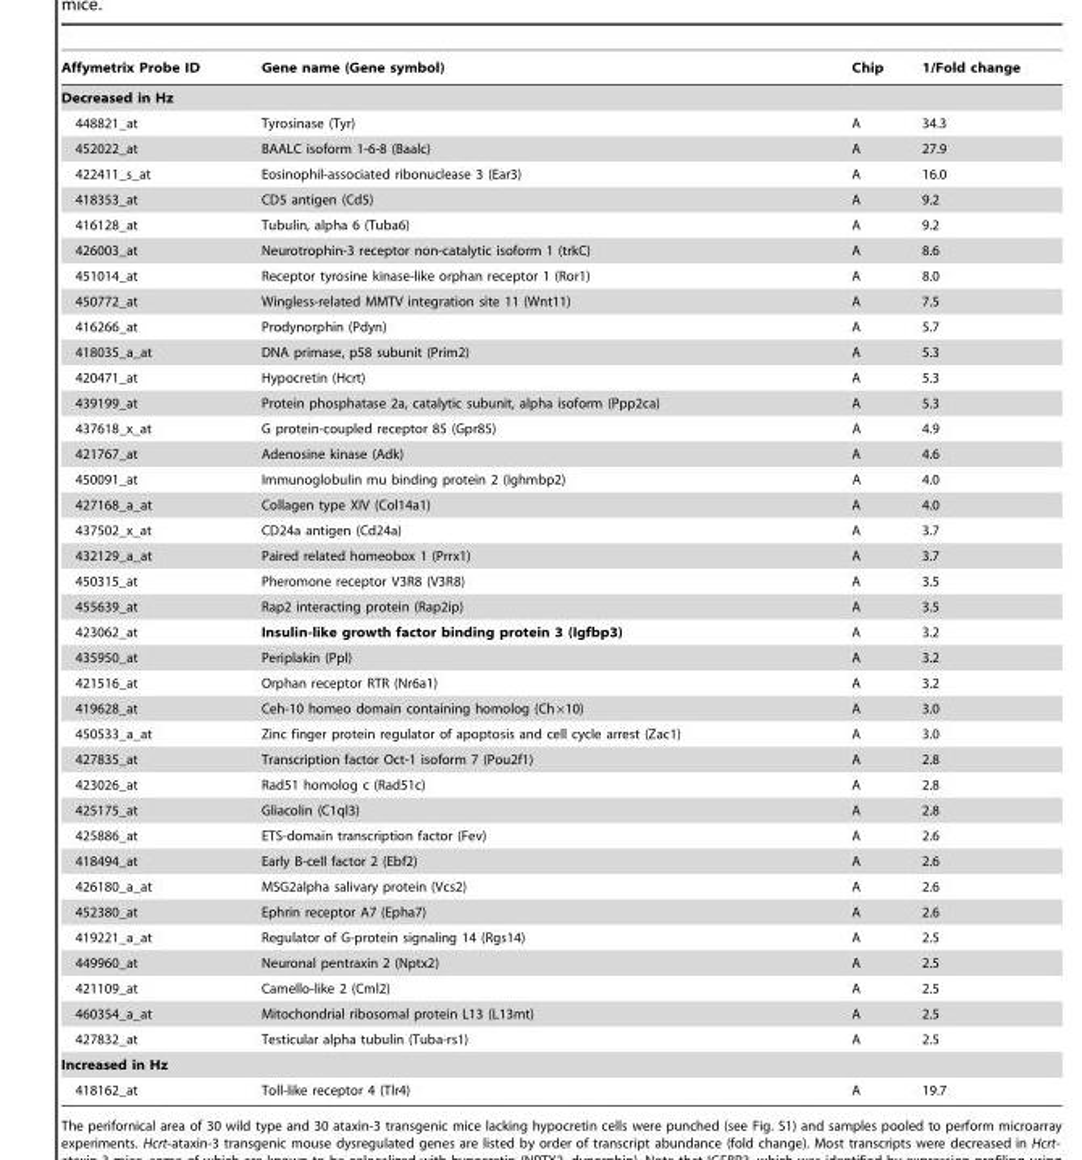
<table><thead><tr><td>Affymetrix Probe ID</td><td>Gene name (Gene symbol)</td><td>Chip</td><td>1/Fold change</td></tr></thead><tbody><tr><td colspan="4">Decreased in Hz</td></tr><tr><td>448821_at</td><td>Tyrosinase (Tyr)</td><td>A</td><td>34.3</td></tr><tr><td>452022_at</td><td>BAALC isoform 1-6-8 (Baalc)</td><td>A</td><td>27.9</td></tr><tr><td>422411_s_at</td><td>Eosinophil-associated ribonuclease 3 (Ear3)</td><td>A</td><td>16.0</td></tr><tr><td>418353_at</td><td>CD5 antigen (Cd5)</td><td>A</td><td>9.2</td></tr><tr><td>416128_at</td><td>Tubulin, alpha 6 (Tuba6)</td><td>A</td><td>9.2</td></tr><tr><td>426003_at</td><td>Neurotrophin-3 receptor non-catalytic isoform 1 (trkC)</td><td>A</td><td>8.6</td></tr><tr><td>451014_at</td><td>Receptor tyrosine kinase-like orphan receptor 1 (Ror1)</td><td>A</td><td>8.0</td></tr><tr><td>450772_at</td><td>Wingless-related MMTV integration site 11 (Wnt11)</td><td>A</td><td>7.5</td></tr><tr><td>416266_at</td><td>Prodynorphin (Pdyn)</td><td>A</td><td>5.7</td></tr><tr><td>418035_a_at</td><td>DNA primase, p58 subunit (Prim2)</td><td>A</td><td>5.3</td></tr><tr><td>420471_at</td><td>Hypocretin (Hcrt)</td><td>A</td><td>5.3</td></tr><tr><td>439199_at</td><td>Protein phosphatase 2a, catalytic subunit, alpha isoform (Ppp2ca)</td><td>A</td><td>5.3</td></tr><tr><td>437618_x_at</td><td>G protein-coupled receptor 85 (Gpr85)</td><td>A</td><td>4.9</td></tr><tr><td>421767_at</td><td>Adenosine kinase (Adk)</td><td>A</td><td>4.6</td></tr><tr><td>450091_at</td><td>Immunoglobulin mu binding protein 2 (Ighmbp2)</td><td>A</td><td>4.0</td></tr><tr><td>427168_a_at</td><td>Collagen type XIV (Col14a1)</td><td>A</td><td>4.0</td></tr><tr><td>437502_x_at</td><td>CD24a antigen (Cd24a)</td><td>A</td><td>3.7</td></tr><tr><td>432129_a_at</td><td>Paired related homeobox 1 (Prrx1)</td><td>A</td><td>3.7</td></tr><tr><td>450315_at</td><td>Pheromone receptor V3R8 (V3R8)</td><td>A</td><td>3.5</td></tr><tr><td>455639_at</td><td>Rap2 interacting protein (Rap2ip)</td><td>A</td><td>3.5</td></tr><tr><td>423062_at</td><td>Insulin-like growth factor binding protein 3 (Igfbp3)</td><td>A</td><td>3.2</td></tr><tr><td>435950_at</td><td>Periplakin (Ppl)</td><td>A</td><td>3.2</td></tr><tr><td>421516_at</td><td>Orphan receptor RTR (Nr6a1)</td><td>A</td><td>3.2</td></tr><tr><td>419628_at</td><td>Ceh-10 homeo domain containing homolog (Ch×10)</td><td>A</td><td>3.0</td></tr><tr><td>450533_a_at</td><td>Zinc finger protein regulator of apoptosis and cell cycle arrest (Zac1)</td><td>A</td><td>3.0</td></tr><tr><td>427835_at</td><td>Transcription factor Oct-1 isoform 7 (Pou2f1)</td><td>A</td><td>2.8</td></tr><tr><td>423026_at</td><td>Rad51 homolog c (Rad51c)</td><td>A</td><td>2.8</td></tr><tr><td>425175_at</td><td>Gliacolin (C1ql3)</td><td>A</td><td>2.8</td></tr><tr><td>425886_at</td><td>ETS-domain transcription factor (Fev)</td><td>A</td><td>2.6</td></tr><tr><td>418494_at</td><td>Early B-cell factor 2 (Ebf2)</td><td>A</td><td>2.6</td></tr><tr><td>426180_a_at</td><td>MSG2alpha salivary protein (Vcs2)</td><td>A</td><td>2.6</td></tr><tr><td>452380_at</td><td>Ephrin receptor A7 (Epha7)</td><td>A</td><td>2.6</td></tr><tr><td>419221_a_at</td><td>Regulator of G-protein signaling 14 (Rgs14)</td><td>A</td><td>2.5</td></tr><tr><td>449960_at</td><td>Neuronal pentraxin 2 (Nptx2)</td><td>A</td><td>2.5</td></tr><tr><td>421109_at</td><td>Camello-like 2 (Cml2)</td><td>A</td><td>2.5</td></tr><tr><td>460354_a_at</td><td>Mitochondrial ribosomal protein L13 (L13mt)</td><td>A</td><td>2.5</td></tr><tr><td>427832_at</td><td>Testicular alpha tubulin (Tuba-rs1)</td><td>A</td><td>2.5</td></tr><tr><td colspan="4">Increased in Hz</td></tr><tr><td>418162_at</td><td>Toll-like receptor 4 (Tlr4)</td><td>A</td><td>19.7</td></tr></tbody></table>